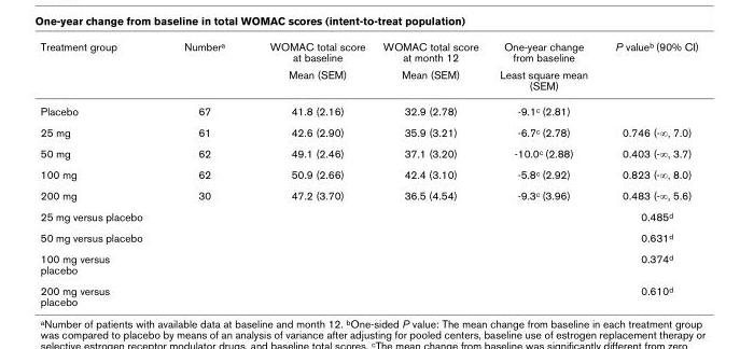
<table><thead><tr><td rowspan="2">Treatment group</td><td rowspan="2">Number<sup>a</sup></td><td rowspan="2">WOMAC total score at baseline Mean (SEM)</td><td rowspan="2">WOMAC total score at month 12 Mean (SEM)</td><td rowspan="2">One-year change from baseline Least square mean (SEM)</td><td rowspan="2">P value<sup>b</sup> (90% CI)</td></tr><tr></tr></thead><tbody><tr><td>Placebo</td><td>67</td><td>41.8 (2.16)</td><td>32.9 (2.78)</td><td>-9.1<sup>c</sup> (2.81)</td><td></td></tr><tr><td>25 mg</td><td>61</td><td>42.6 (2.90)</td><td>35.9 (3.21)</td><td>-6.7<sup>c</sup> (2.78)</td><td>0.746 (-∞, 7.0)</td></tr><tr><td>50 mg</td><td>62</td><td>49.1 (2.46)</td><td>37.1 (3.20)</td><td>-10.0<sup>c</sup> (2.88)</td><td>0.403 (-∞, 3.7)</td></tr><tr><td>100 mg</td><td>62</td><td>50.9 (2.66)</td><td>42.4 (3.10)</td><td>-5.8<sup>c</sup> (2.92)</td><td>0.823 (-∞, 8.0)</td></tr><tr><td>200 mg</td><td>30</td><td>47.2 (3.70)</td><td>36.5 (4.54)</td><td>-9.3<sup>c</sup> (3.96)</td><td>0.483 (-∞, 5.6)</td></tr><tr><td>25 mg versus placebo</td><td></td><td></td><td></td><td></td><td>0.485<sup>d</sup></td></tr><tr><td>50 mg versus placebo</td><td></td><td></td><td></td><td></td><td>0.631<sup>d</sup></td></tr><tr><td>100 mg versus placebo</td><td></td><td></td><td></td><td></td><td>0.374<sup>d</sup></td></tr><tr><td>200 mg versus placebo</td><td></td><td></td><td></td><td></td><td>0.610<sup>d</sup></td></tr></tbody></table>